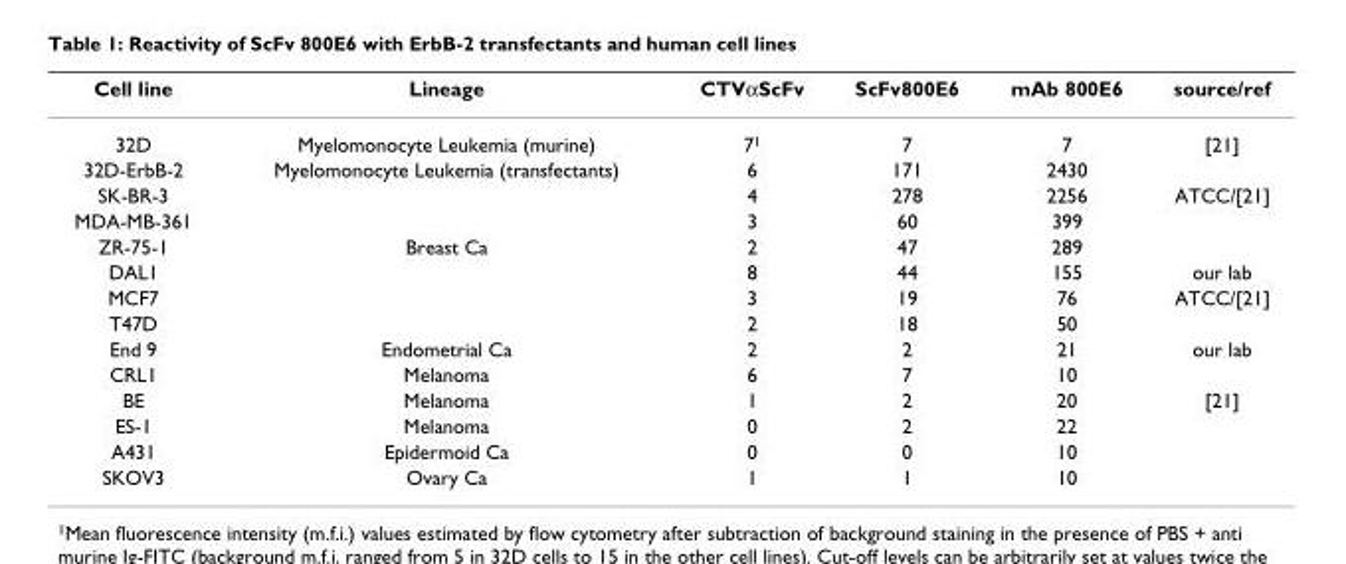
<table><thead><tr><td>Cell line</td><td>Lineage</td><td>CTVαScFv</td><td>ScFv800E6</td><td>mAb 800E6</td><td>source/ref</td></tr></thead><tbody><tr><td>32D</td><td>Myelomonocyte Leukemia (murine)</td><td>7<sup>1</sup></td><td>7</td><td>7</td><td>[21]</td></tr><tr><td>32D-ErbB-2</td><td>Myelomonocyte Leukemia (transfectants)</td><td>6</td><td>171</td><td>2430</td><td></td></tr><tr><td>SK-BR-3</td><td></td><td>4</td><td>278</td><td>2256</td><td>ATCC/[21]</td></tr><tr><td>MDA-MB-361</td><td></td><td>3</td><td>60</td><td>399</td><td></td></tr><tr><td>ZR-75-1</td><td>Breast Ca</td><td>2</td><td>47</td><td>289</td><td></td></tr><tr><td>DAL1</td><td></td><td>8</td><td>44</td><td>155</td><td>our lab</td></tr><tr><td>MCF7</td><td></td><td>3</td><td>19</td><td>76</td><td>ATCC/[21]</td></tr><tr><td>T47D</td><td></td><td>2</td><td>18</td><td>50</td><td></td></tr><tr><td>End 9</td><td>Endometrial Ca</td><td>2</td><td>2</td><td>21</td><td>our lab</td></tr><tr><td>CRL1</td><td>Melanoma</td><td>6</td><td>7</td><td>10</td><td></td></tr><tr><td>BE</td><td>Melanoma</td><td>1</td><td>2</td><td>20</td><td>[21]</td></tr><tr><td>ES-1</td><td>Melanoma</td><td>0</td><td>2</td><td>22</td><td></td></tr><tr><td>A431</td><td>Epidermoid Ca</td><td>0</td><td>0</td><td>10</td><td></td></tr><tr><td>SKOV3</td><td>Ovary Ca</td><td>1</td><td>1</td><td>10</td><td></td></tr></tbody></table>